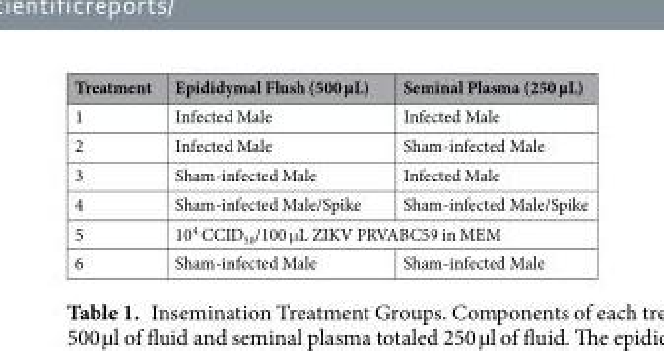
<table><thead><tr><td>Treatment</td><td>Epididymal Flush (500 µL)</td><td>Seminal Plasma (250 µL)</td></tr></thead><tbody><tr><td>1</td><td>Infected Male</td><td>Infected Male</td></tr><tr><td>2</td><td>Infected Male</td><td>Sham-infected Male</td></tr><tr><td>3</td><td>Sham-infected Male</td><td>Infected Male</td></tr><tr><td>4</td><td>Sham-infected Male/Spike</td><td>Sham-infected Male/Spike</td></tr><tr><td>5</td><td colspan="2">10<sup>4</sup> CCID<sub>50</sub>/100 μL ZIKV PRVABC59 in MEM</td></tr><tr><td>6</td><td>Sham-infected Male</td><td>Sham-infected Male</td></tr></tbody></table>